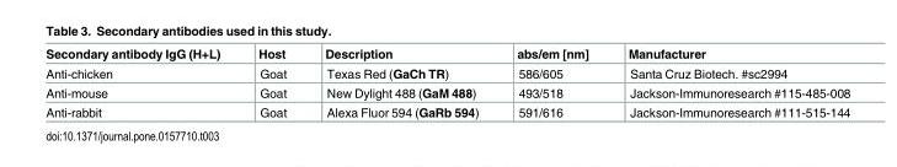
<table><thead><tr><td>Secondary antibody IgG (H+L)</td><td>Host</td><td>Description</td><td>abs/em [nm]</td><td>Manufacturer</td></tr></thead><tbody><tr><td>Anti-chicken</td><td>Goat</td><td>Texas Red (GaCh TR)</td><td>586/605</td><td>Santa Cruz Biotech. #sc2994</td></tr><tr><td>Anti-mouse</td><td>Goat</td><td>New Dylight 488 (GaM 488)</td><td>493/518</td><td>Jackson-Immunoresearch #115-485-008</td></tr><tr><td>Anti-rabbit</td><td>Goat</td><td>Alexa Fluor 594 (GaRb 594)</td><td>591/616</td><td>Jackson-Immunoresearch #111-515-144</td></tr></tbody></table>